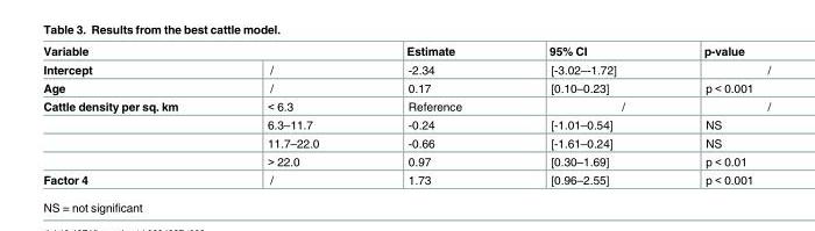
<table><thead><tr><td colspan="2">Variable</td><td rowspan="2">Estimate -2.34</td><td rowspan="2">95% CI [-3.02–-1.72]</td><td rowspan="2">p-value /</td></tr><tr><td>Intercept</td><td>/</td></tr></thead><tbody><tr><td>Age</td><td>/</td><td>0.17</td><td>[0.10–0.23]</td><td>p &lt; 0.001</td></tr><tr><td rowspan="4">Cattle density per sq. km</td><td>&lt; 6.3</td><td>Reference</td><td>/</td><td>/</td></tr><tr><td>6.3–11.7</td><td>-0.24</td><td>[-1.01–0.54]</td><td>NS</td></tr><tr><td>11.7–22.0</td><td>-0.66</td><td>[-1.61–0.24]</td><td>NS</td></tr><tr><td>&gt; 22.0</td><td>0.97</td><td>[0.30–1.69]</td><td>p &lt; 0.01</td></tr><tr><td>Factor 4</td><td>/</td><td>1.73</td><td>[0.96–2.55]</td><td>p &lt; 0.001</td></tr></tbody></table>